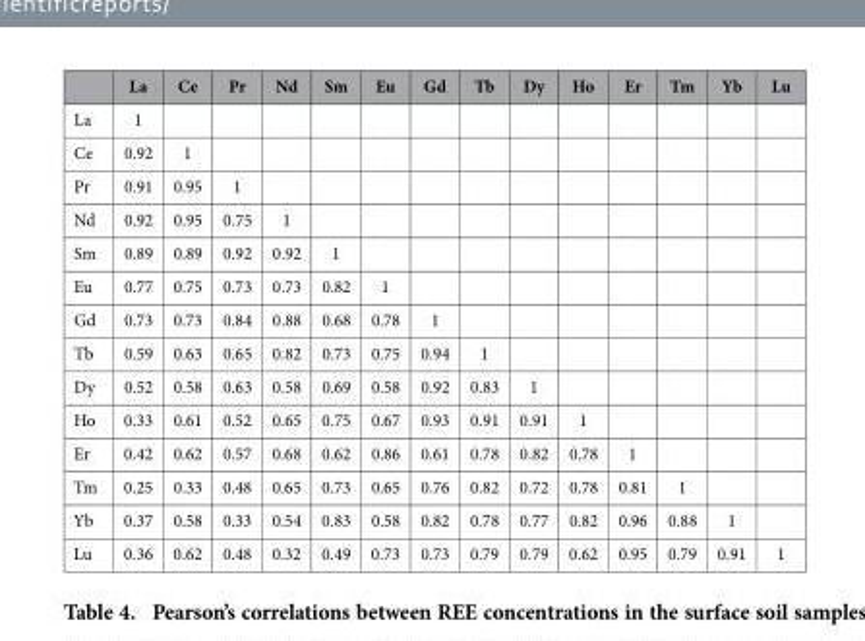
<table><thead><tr><td></td><td>La</td><td>Ce</td><td>Pr</td><td>Nd</td><td>Sm</td><td>Eu</td><td>Gd</td><td>Tb</td><td>Dy</td><td>Ho</td><td>Er</td><td>Tm</td><td>Yb</td><td>Lu</td></tr></thead><tbody><tr><td>La</td><td>1</td><td></td><td></td><td></td><td></td><td></td><td></td><td></td><td></td><td></td><td></td><td></td><td></td><td></td></tr><tr><td>Ce</td><td>0.92</td><td>1</td><td></td><td></td><td></td><td></td><td></td><td></td><td></td><td></td><td></td><td></td><td></td><td></td></tr><tr><td>Pr</td><td>0.91</td><td>0.95</td><td>1</td><td></td><td></td><td></td><td></td><td></td><td></td><td></td><td></td><td></td><td></td><td></td></tr><tr><td>Nd</td><td>0.92</td><td>0.95</td><td>0.75</td><td>1</td><td></td><td></td><td></td><td></td><td></td><td></td><td></td><td></td><td></td><td></td></tr><tr><td>Sm</td><td>0.89</td><td>0.89</td><td>0.92</td><td>0.92</td><td>1</td><td></td><td></td><td></td><td></td><td></td><td></td><td></td><td></td><td></td></tr><tr><td>Eu</td><td>0.77</td><td>0.75</td><td>0.73</td><td>0.73</td><td>0.82</td><td>1</td><td></td><td></td><td></td><td></td><td></td><td></td><td></td><td></td></tr><tr><td>Gd</td><td>0.73</td><td>0.73</td><td>0.84</td><td>0.88</td><td>0.68</td><td>0.78</td><td>1</td><td></td><td></td><td></td><td></td><td></td><td></td><td></td></tr><tr><td>Tb</td><td>0.59</td><td>0.63</td><td>0.65</td><td>0.82</td><td>0.73</td><td>0.75</td><td>0.94</td><td>1</td><td></td><td></td><td></td><td></td><td></td><td></td></tr><tr><td>Dy</td><td>0.52</td><td>0.58</td><td>0.63</td><td>0.58</td><td>0.69</td><td>0.58</td><td>0.92</td><td>0.83</td><td>1</td><td></td><td></td><td></td><td></td><td></td></tr><tr><td>Ho</td><td>0.33</td><td>0.61</td><td>0.52</td><td>0.65</td><td>0.75</td><td>0.67</td><td>0.93</td><td>0.91</td><td>0.91</td><td>1</td><td></td><td></td><td></td><td></td></tr><tr><td>Er</td><td>0.42</td><td>0.62</td><td>0.57</td><td>0.68</td><td>0.62</td><td>0.86</td><td>0.61</td><td>0.78</td><td>0.82</td><td>0.78</td><td>1</td><td></td><td></td><td></td></tr><tr><td>Tm</td><td>0.25</td><td>0.33</td><td>0.48</td><td>0.65</td><td>0.73</td><td>0.65</td><td>0.76</td><td>0.82</td><td>0.72</td><td>0.78</td><td>0.81</td><td>1</td><td></td><td></td></tr><tr><td>Yb</td><td>0.37</td><td>0.58</td><td>0.33</td><td>0.54</td><td>0.83</td><td>0.58</td><td>0.82</td><td>0.78</td><td>0.77</td><td>0.82</td><td>0.96</td><td>0.88</td><td>1</td><td></td></tr><tr><td>Lu</td><td>0.36</td><td>0.62</td><td>0.48</td><td>0.32</td><td>0.49</td><td>0.73</td><td>0.73</td><td>0.79</td><td>0.79</td><td>0.62</td><td>0.95</td><td>0.79</td><td>0.91</td><td>1</td></tr></tbody></table>